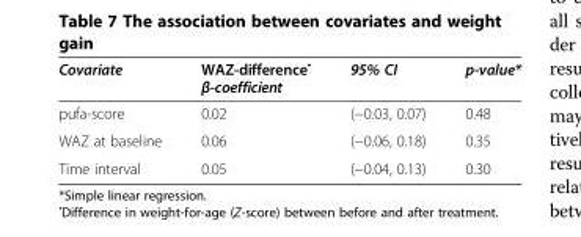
<table><thead><tr><td>Covariate</td><td>WAZ-difference<sup>•</sup> β-coefficient</td><td>95% CI</td><td>p-value*</td></tr></thead><tbody><tr><td>pufa-score</td><td>0.02</td><td>(−0.03, 0.07)</td><td>0.48</td></tr><tr><td>WAZ at baseline</td><td>0.06</td><td>(−0.06, 0.18)</td><td>0.35</td></tr><tr><td>Time interval</td><td>0.05</td><td>(−0.04, 0.13)</td><td>0.30</td></tr></tbody></table>